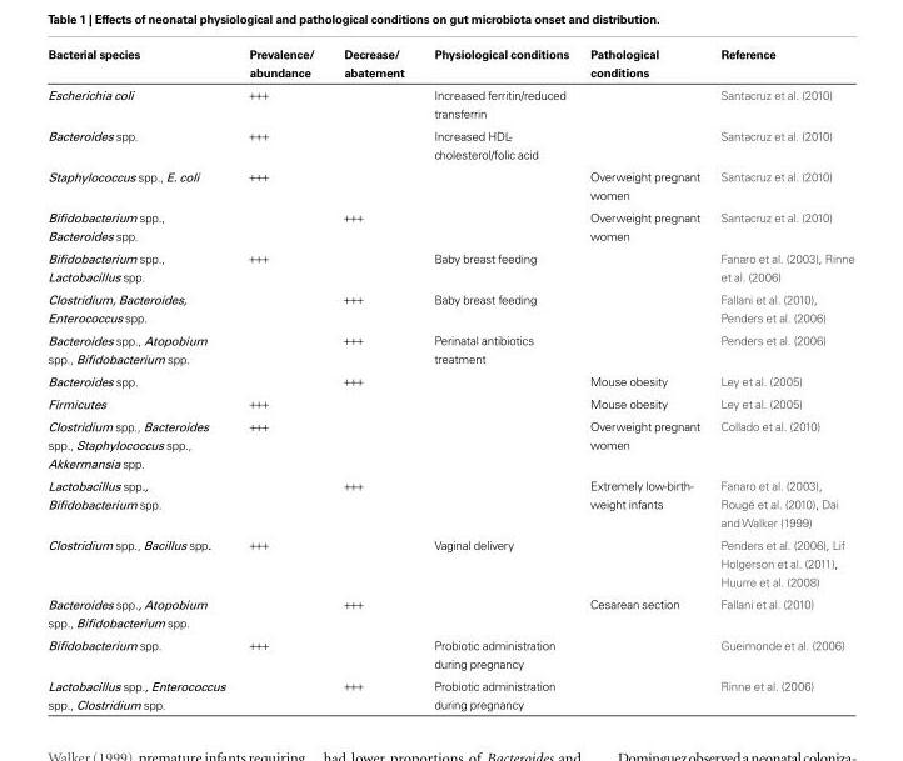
<table><thead><tr><td>Bacterial species</td><td>Prevalence/ abundance</td><td>Decrease/ abatement</td><td>Physiological conditions</td><td>Pathological conditions</td><td>Reference</td></tr></thead><tbody><tr><td>Escherichia coli</td><td>+++</td><td></td><td>Increased ferritin/reduced transferrin</td><td></td><td>Santacruz et al. (2010)</td></tr><tr><td>Bacteroides spp.</td><td>+++</td><td></td><td>Increased HDL- cholesterol/folic acid</td><td></td><td>Santacruz et al. (2010)</td></tr><tr><td>Staphylococcus spp., E. coli</td><td>+++</td><td></td><td></td><td>Overweight pregnant women</td><td>Santacruz et al. (2010)</td></tr><tr><td>Bifidobacterium spp., Bacteroides spp.</td><td></td><td>+++</td><td></td><td>Overweight pregnant women</td><td>Santacruz et al. (2010)</td></tr><tr><td>Bifidobacterium spp., Lactobacillus spp.</td><td>+++</td><td></td><td>Baby breast feeding</td><td></td><td>Fanaro et al. (2003), Rinne et al. (2006)</td></tr><tr><td>Clostridium, Bacteroides, Enterococcus spp.</td><td></td><td>+++</td><td>Baby breast feeding</td><td></td><td>Fallani et al. (2010), Penders et al. (2006)</td></tr><tr><td>Bacteroides spp., Atopobium spp., Bifidobacterium spp.</td><td></td><td>+++</td><td>Perinatal antibiotics treatment</td><td></td><td>Penders et al. (2006)</td></tr><tr><td>Bacteroides spp.</td><td></td><td>+++</td><td></td><td>Mouse obesity</td><td>Ley et al. (2005)</td></tr><tr><td>Firmicutes</td><td>+++</td><td></td><td></td><td>Mouse obesity</td><td>Ley et al. (2005)</td></tr><tr><td>Clostridium spp., Bacteroides spp., Staphylococcus spp., Akkermansia spp.</td><td>+++</td><td></td><td></td><td>Overweight pregnant women</td><td>Collado et al. (2010)</td></tr><tr><td>Lactobacillus spp., Bifidobacterium spp.</td><td></td><td>+++</td><td></td><td>Extremely low-birth- weight infants</td><td>Fanaro et al. (2003), Rougé et al. (2010), Dai and Walker (1999)</td></tr><tr><td>Clostridium spp., Bacillus spp.</td><td>+++</td><td></td><td>Vaginal delivery</td><td></td><td>Penders et al. (2006), Lif Holgerson et al. (2011), Huurre et al. (2008)</td></tr><tr><td>Bacteroides spp., Atopobium spp., Bifidobacterium spp.</td><td></td><td>+++</td><td></td><td>Cesarean section</td><td>Fallani et al. (2010)</td></tr><tr><td>Bifidobacterium spp.</td><td>+++</td><td></td><td>Probiotic administration during pregnancy</td><td></td><td>Gueimonde et al. (2006)</td></tr><tr><td>Lactobacillus spp., Enterococcus spp., Clostridium spp.</td><td></td><td>+++</td><td>Probiotic administration during pregnancy</td><td></td><td>Rinne et al. (2006)</td></tr></tbody></table>